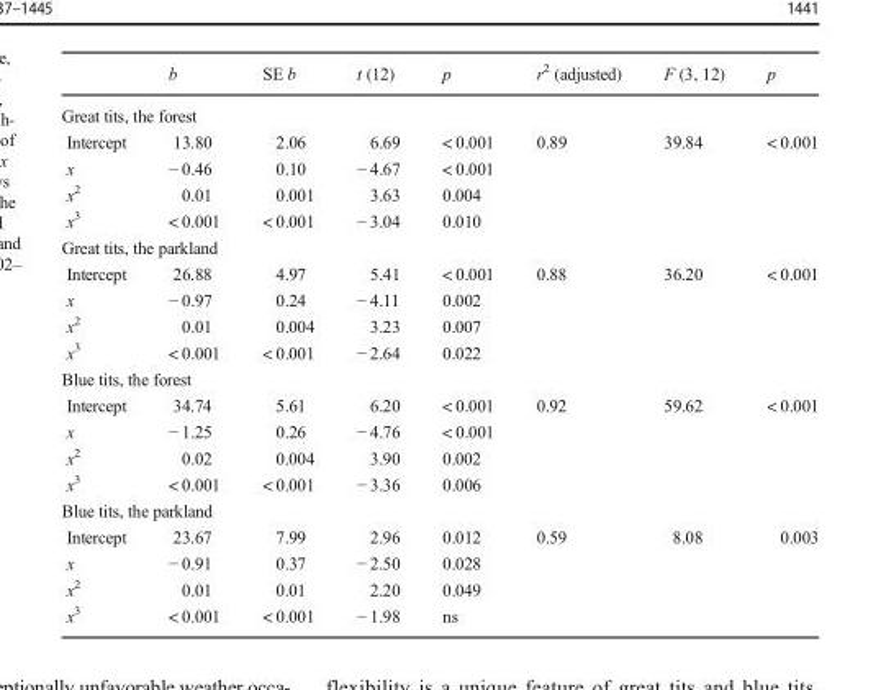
<table><thead><tr><td></td><td>b</td><td>SE b</td><td>t (12)</td><td>p</td><td>r<sup>2</sup> (adjusted)</td><td>F (3, 12)</td><td>p</td></tr></thead><tbody><tr><td colspan="8">Great tits, the forest</td></tr><tr><td>Intercept</td><td>13.80</td><td>2.06</td><td>6.69</td><td>&lt; 0.001</td><td>0.89</td><td>39.84</td><td>&lt; 0.001</td></tr><tr><td>x</td><td>− 0.46</td><td>0.10</td><td>− 4.67</td><td>&lt; 0.001</td><td></td><td></td><td></td></tr><tr><td>x<sup>2</sup></td><td>0.01</td><td>0.001</td><td>3.63</td><td>0.004</td><td></td><td></td><td></td></tr><tr><td>x<sup>3</sup></td><td>&lt; 0.001</td><td>&lt; 0.001</td><td>− 3.04</td><td>0.010</td><td></td><td></td><td></td></tr><tr><td colspan="8">Great tits, the parkland</td></tr><tr><td>Intercept</td><td>26.88</td><td>4.97</td><td>5.41</td><td>&lt; 0.001</td><td>0.88</td><td>36.20</td><td>&lt; 0.001</td></tr><tr><td>x</td><td>− 0.97</td><td>0.24</td><td>− 4.11</td><td>0.002</td><td></td><td></td><td></td></tr><tr><td>x<sup>2</sup></td><td>0.01</td><td>0.004</td><td>3.23</td><td>0.007</td><td></td><td></td><td></td></tr><tr><td>x<sup>3</sup></td><td>&lt; 0.001</td><td>&lt; 0.001</td><td>− 2.64</td><td>0.022</td><td></td><td></td><td></td></tr><tr><td colspan="8">Blue tits, the forest</td></tr><tr><td>Intercept</td><td>34.74</td><td>5.61</td><td>6.20</td><td>&lt; 0.001</td><td>0.92</td><td>59.62</td><td>&lt; 0.001</td></tr><tr><td>x</td><td>− 1.25</td><td>0.26</td><td>− 4.76</td><td>&lt; 0.001</td><td></td><td></td><td></td></tr><tr><td>x<sup>2</sup></td><td>0.02</td><td>0.004</td><td>3.90</td><td>0.002</td><td></td><td></td><td></td></tr><tr><td>x<sup>3</sup></td><td>&lt; 0.001</td><td>&lt; 0.001</td><td>− 3.36</td><td>0.006</td><td></td><td></td><td></td></tr><tr><td colspan="8">Blue tits, the parkland</td></tr><tr><td>Intercept</td><td>23.67</td><td>7.99</td><td>2.96</td><td>0.012</td><td>0.59</td><td>8.08</td><td>0.003</td></tr><tr><td>x</td><td>− 0.91</td><td>0.37</td><td>− 2.50</td><td>0.028</td><td></td><td></td><td></td></tr><tr><td>x<sup>2</sup></td><td>0.01</td><td>0.01</td><td>2.20</td><td>0.049</td><td></td><td></td><td></td></tr><tr><td>x<sup>3</sup></td><td>&lt; 0.001</td><td>&lt; 0.001</td><td>− 1.98</td><td>ns</td><td></td><td></td><td></td></tr></tbody></table>